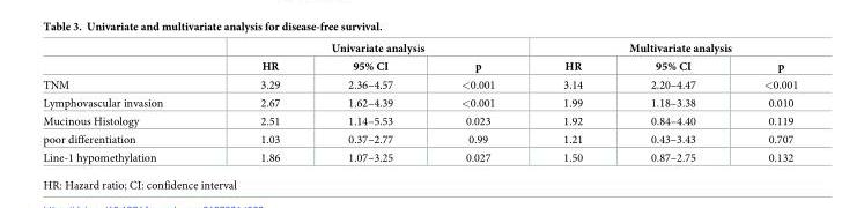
<table><thead><tr><td rowspan="2"></td><td colspan="3">Univariate analysis</td><td colspan="3">Multivariate analysis</td></tr><tr><td>HR</td><td>95% CI</td><td>p</td><td>HR</td><td>95% CI</td><td>p</td></tr></thead><tbody><tr><td>TNM</td><td>3.29</td><td>2.36–4.57</td><td>&lt;0.001</td><td>3.14</td><td>2.20–4.47</td><td>&lt;0.001</td></tr><tr><td>Lymphovascular invasion</td><td>2.67</td><td>1.62–4.39</td><td>&lt;0.001</td><td>1.99</td><td>1.18–3.38</td><td>0.010</td></tr><tr><td>Mucinous Histology</td><td>2.51</td><td>1.14–5.53</td><td>0.023</td><td>1.92</td><td>0.84–4.40</td><td>0.119</td></tr><tr><td>poor differentiation</td><td>1.03</td><td>0.37–2.77</td><td>0.99</td><td>1.21</td><td>0.43–3.43</td><td>0.707</td></tr><tr><td>Line-1 hypomethylation</td><td>1.86</td><td>1.07–3.25</td><td>0.027</td><td>1.50</td><td>0.87–2.75</td><td>0.132</td></tr></tbody></table>